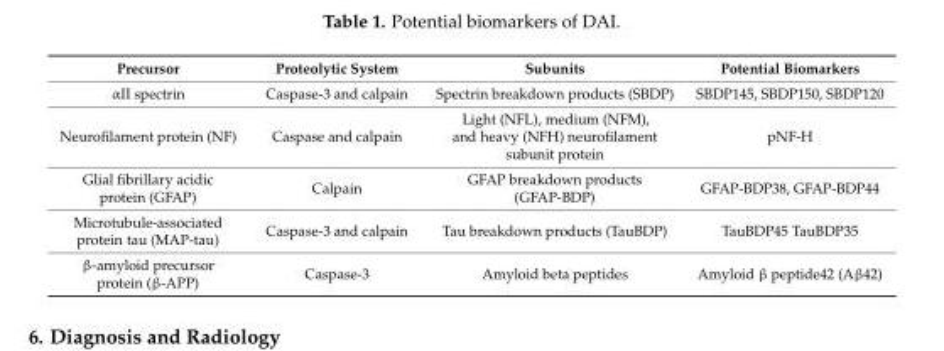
<table><thead><tr><td>Precursor</td><td>Proteolytic System</td><td>Subunits</td><td>Potential Biomarkers</td></tr></thead><tbody><tr><td>αII spectrin</td><td>Caspase-3 and calpain</td><td>Spectrin breakdown products (SBDP)</td><td>SBDP145, SBDP150, SBDP120</td></tr><tr><td>Neurofilament protein (NF)</td><td>Caspase and calpain</td><td>Light (NFL), medium (NFM), and heavy (NFH) neurofilament subunit protein</td><td>pNF-H</td></tr><tr><td>Glial fibrillary acidic protein (GFAP)</td><td>Calpain</td><td>GFAP breakdown products (GFAP-BDP)</td><td>GFAP-BDP38, GFAP-BDP44</td></tr><tr><td>Microtubule-associated protein tau (MAP-tau)</td><td>Caspase-3 and calpain</td><td>Tau breakdown products (TauBDP)</td><td>TauBDP45 TauBDP35</td></tr><tr><td>β-amyloid precursor protein (β-APP)</td><td>Caspase-3</td><td>Amyloid beta peptides</td><td>Amyloid β peptide42 (Aβ42)</td></tr></tbody></table>